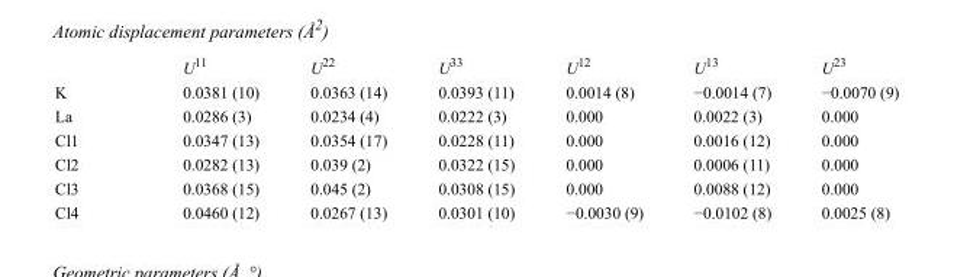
<table><thead><tr><td></td><td>U<sup>11</sup></td><td>U<sup>22</sup></td><td>U<sup>33</sup></td><td>U<sup>12</sup></td><td>U<sup>13</sup></td><td>U<sup>23</sup></td></tr></thead><tbody><tr><td>K</td><td>0.0381 (10)</td><td>0.0363 (14)</td><td>0.0393 (11)</td><td>0.0014 (8)</td><td>−0.0014 (7)</td><td>−0.0070 (9)</td></tr><tr><td>La</td><td>0.0286 (3)</td><td>0.0234 (4)</td><td>0.0222 (3)</td><td>0.000</td><td>0.0022 (3)</td><td>0.000</td></tr><tr><td>Cl1</td><td>0.0347 (13)</td><td>0.0354 (17)</td><td>0.0228 (11)</td><td>0.000</td><td>0.0016 (12)</td><td>0.000</td></tr><tr><td>Cl2</td><td>0.0282 (13)</td><td>0.039 (2)</td><td>0.0322 (15)</td><td>0.000</td><td>0.0006 (11)</td><td>0.000</td></tr><tr><td>Cl3</td><td>0.0368 (15)</td><td>0.045 (2)</td><td>0.0308 (15)</td><td>0.000</td><td>0.0088 (12)</td><td>0.000</td></tr><tr><td>Cl4</td><td>0.0460 (12)</td><td>0.0267 (13)</td><td>0.0301 (10)</td><td>−0.0030 (9)</td><td>−0.0102 (8)</td><td>0.0025 (8)</td></tr></tbody></table>